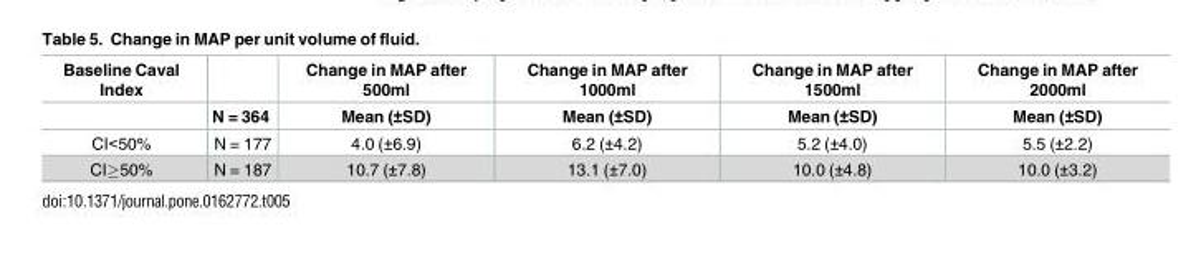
<table><thead><tr><td rowspan="2">Baseline Caval Index</td><td rowspan="2">N = 364</td><td rowspan="2">Change in MAP after 500ml Mean (±SD)</td><td rowspan="2">Change in MAP after 1000ml Mean (±SD)</td><td rowspan="2">Change in MAP after 1500ml Mean (±SD)</td><td rowspan="2">Change in MAP after 2000ml Mean (±SD)</td></tr><tr></tr></thead><tbody><tr><td>CI&lt;50%</td><td>N = 177</td><td>4.0 (±6.9)</td><td>6.2 (±4.2)</td><td>5.2 (±4.0)</td><td>5.5 (±2.2)</td></tr><tr><td>CI≥50%</td><td>N = 187</td><td>10.7 (±7.8)</td><td>13.1 (±7.0)</td><td>10.0 (±4.8)</td><td>10.0 (±3.2)</td></tr></tbody></table>